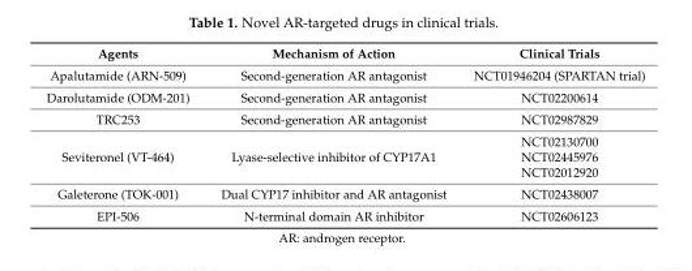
<table><thead><tr><td>Agents</td><td>Mechanism of Action</td><td>Clinical Trials</td></tr></thead><tbody><tr><td>Apalutamide (ARN-509)</td><td>Second-generation AR antagonist</td><td>NCT01946204 (SPARTAN trial)</td></tr><tr><td>Darolutamide (ODM-201)</td><td>Second-generation AR antagonist</td><td>NCT02200614</td></tr><tr><td>TRC253</td><td>Second-generation AR antagonist</td><td>NCT02987829</td></tr><tr><td>Seviteronel (VT-464)</td><td>Lyase-selective inhibitor of CYP17A1</td><td>NCT02130700 NCT02445976 NCT02012920</td></tr><tr><td>Galeterone (TOK-001)</td><td>Dual CYP17 inhibitor and AR antagonist</td><td>NCT02438007</td></tr><tr><td>EPI-506</td><td>N-terminal domain AR inhibitor</td><td>NCT02606123</td></tr></tbody></table>